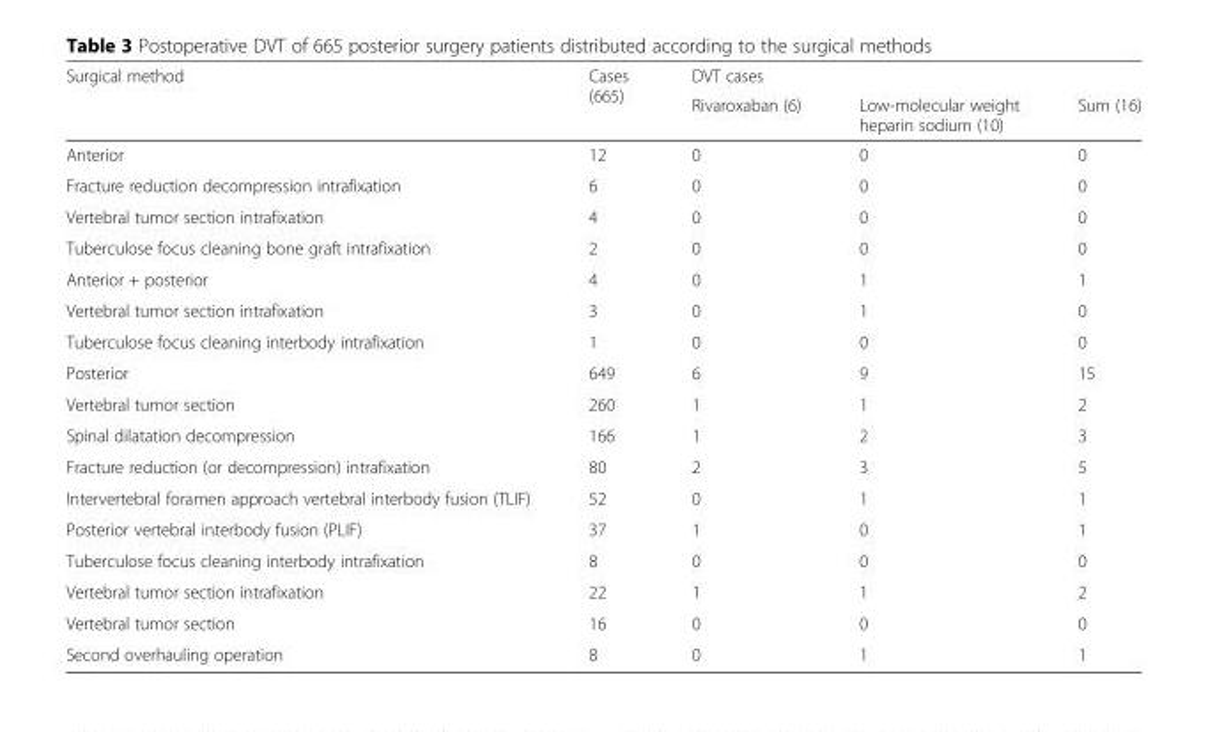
<table><thead><tr><td rowspan="2">Surgical method</td><td rowspan="2">Cases (665)</td><td colspan="3">DVT cases</td></tr><tr><td>Rivaroxaban (6)</td><td>Low-molecular weight heparin sodium (10)</td><td>Sum (16)</td></tr></thead><tbody><tr><td>Anterior</td><td>12</td><td>0</td><td>0</td><td>0</td></tr><tr><td>Fracture reduction decompression intrafixation</td><td>6</td><td>0</td><td>0</td><td>0</td></tr><tr><td>Vertebral tumor section intrafixation</td><td>4</td><td>0</td><td>0</td><td>0</td></tr><tr><td>Tuberculose focus cleaning bone graft intrafixation</td><td>2</td><td>0</td><td>0</td><td>0</td></tr><tr><td>Anterior + posterior</td><td>4</td><td>0</td><td>1</td><td>1</td></tr><tr><td>Vertebral tumor section intrafixation</td><td>3</td><td>0</td><td>1</td><td>0</td></tr><tr><td>Tuberculose focus cleaning interbody intrafixation</td><td>1</td><td>0</td><td>0</td><td>0</td></tr><tr><td>Posterior</td><td>649</td><td>6</td><td>9</td><td>15</td></tr><tr><td>Vertebral tumor section</td><td>260</td><td>1</td><td>1</td><td>2</td></tr><tr><td>Spinal dilatation decompression</td><td>166</td><td>1</td><td>2</td><td>3</td></tr><tr><td>Fracture reduction (or decompression) intrafixation</td><td>80</td><td>2</td><td>3</td><td>5</td></tr><tr><td>Intervertebral foramen approach vertebral interbody fusion (TLIF)</td><td>52</td><td>0</td><td>1</td><td>1</td></tr><tr><td>Posterior vertebral interbody fusion (PLIF)</td><td>37</td><td>1</td><td>0</td><td>1</td></tr><tr><td>Tuberculose focus cleaning interbody intrafixation</td><td>8</td><td>0</td><td>0</td><td>0</td></tr><tr><td>Vertebral tumor section intrafixation</td><td>22</td><td>1</td><td>1</td><td>2</td></tr><tr><td>Vertebral tumor section</td><td>16</td><td>0</td><td>0</td><td>0</td></tr><tr><td>Second overhauling operation</td><td>8</td><td>0</td><td>1</td><td>1</td></tr></tbody></table>